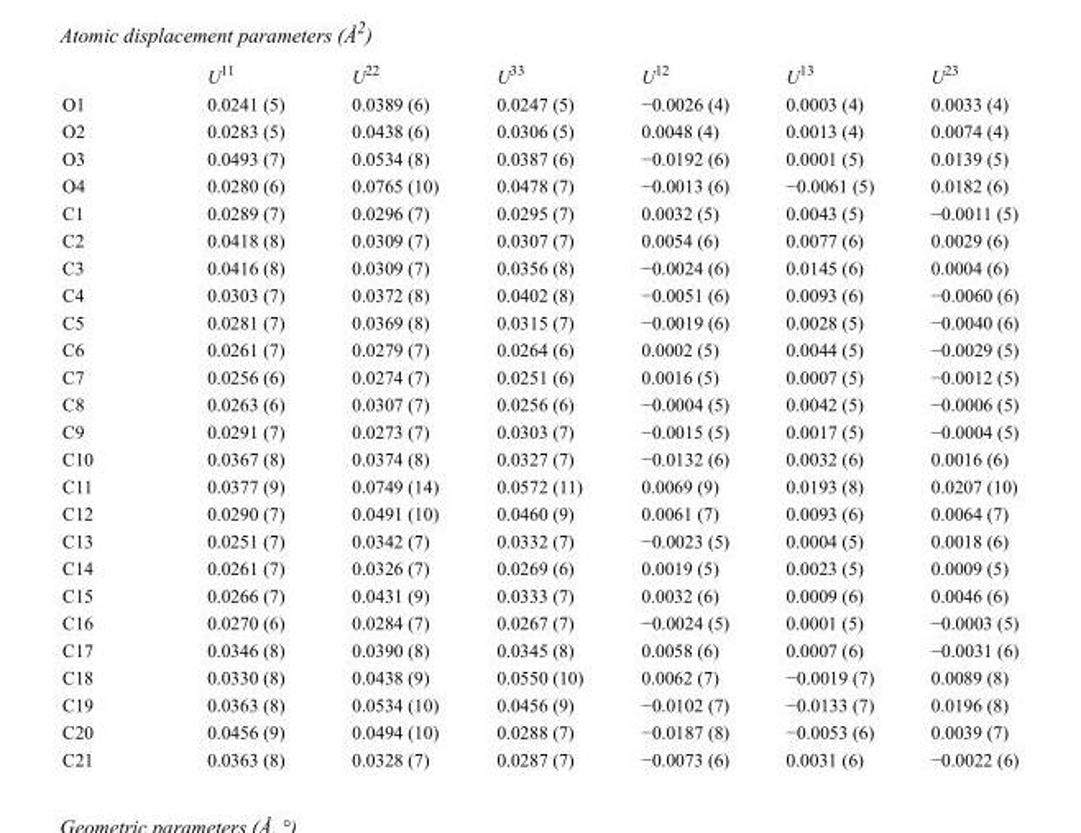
<table><thead><tr><td></td><td>U<sup>11</sup></td><td>U<sup>22</sup></td><td>U<sup>33</sup></td><td>U<sup>12</sup></td><td>U<sup>13</sup></td><td>U<sup>23</sup></td></tr></thead><tbody><tr><td>O1</td><td>0.0241 (5)</td><td>0.0389 (6)</td><td>0.0247 (5)</td><td>−0.0026 (4)</td><td>0.0003 (4)</td><td>0.0033 (4)</td></tr><tr><td>O2</td><td>0.0283 (5)</td><td>0.0438 (6)</td><td>0.0306 (5)</td><td>0.0048 (4)</td><td>0.0013 (4)</td><td>0.0074 (4)</td></tr><tr><td>O3</td><td>0.0493 (7)</td><td>0.0534 (8)</td><td>0.0387 (6)</td><td>−0.0192 (6)</td><td>0.0001 (5)</td><td>0.0139 (5)</td></tr><tr><td>O4</td><td>0.0280 (6)</td><td>0.0765 (10)</td><td>0.0478 (7)</td><td>−0.0013 (6)</td><td>−0.0061 (5)</td><td>0.0182 (6)</td></tr><tr><td>C1</td><td>0.0289 (7)</td><td>0.0296 (7)</td><td>0.0295 (7)</td><td>0.0032 (5)</td><td>0.0043 (5)</td><td>−0.0011 (5)</td></tr><tr><td>C2</td><td>0.0418 (8)</td><td>0.0309 (7)</td><td>0.0307 (7)</td><td>0.0054 (6)</td><td>0.0077 (6)</td><td>0.0029 (6)</td></tr><tr><td>C3</td><td>0.0416 (8)</td><td>0.0309 (7)</td><td>0.0356 (8)</td><td>−0.0024 (6)</td><td>0.0145 (6)</td><td>0.0004 (6)</td></tr><tr><td>C4</td><td>0.0303 (7)</td><td>0.0372 (8)</td><td>0.0402 (8)</td><td>−0.0051 (6)</td><td>0.0093 (6)</td><td>−0.0060 (6)</td></tr><tr><td>C5</td><td>0.0281 (7)</td><td>0.0369 (8)</td><td>0.0315 (7)</td><td>−0.0019 (6)</td><td>0.0028 (5)</td><td>−0.0040 (6)</td></tr><tr><td>C6</td><td>0.0261 (7)</td><td>0.0279 (7)</td><td>0.0264 (6)</td><td>0.0002 (5)</td><td>0.0044 (5)</td><td>−0.0029 (5)</td></tr><tr><td>C7</td><td>0.0256 (6)</td><td>0.0274 (7)</td><td>0.0251 (6)</td><td>0.0016 (5)</td><td>0.0007 (5)</td><td>−0.0012 (5)</td></tr><tr><td>C8</td><td>0.0263 (6)</td><td>0.0307 (7)</td><td>0.0256 (6)</td><td>−0.0004 (5)</td><td>0.0042 (5)</td><td>−0.0006 (5)</td></tr><tr><td>C9</td><td>0.0291 (7)</td><td>0.0273 (7)</td><td>0.0303 (7)</td><td>−0.0015 (5)</td><td>0.0017 (5)</td><td>−0.0004 (5)</td></tr><tr><td>C10</td><td>0.0367 (8)</td><td>0.0374 (8)</td><td>0.0327 (7)</td><td>−0.0132 (6)</td><td>0.0032 (6)</td><td>0.0016 (6)</td></tr><tr><td>C11</td><td>0.0377 (9)</td><td>0.0749 (14)</td><td>0.0572 (11)</td><td>0.0069 (9)</td><td>0.0193 (8)</td><td>0.0207 (10)</td></tr><tr><td>C12</td><td>0.0290 (7)</td><td>0.0491 (10)</td><td>0.0460 (9)</td><td>0.0061 (7)</td><td>0.0093 (6)</td><td>0.0064 (7)</td></tr><tr><td>C13</td><td>0.0251 (7)</td><td>0.0342 (7)</td><td>0.0332 (7)</td><td>−0.0023 (5)</td><td>0.0004 (5)</td><td>0.0018 (6)</td></tr><tr><td>C14</td><td>0.0261 (7)</td><td>0.0326 (7)</td><td>0.0269 (6)</td><td>0.0019 (5)</td><td>0.0023 (5)</td><td>0.0009 (5)</td></tr><tr><td>C15</td><td>0.0266 (7)</td><td>0.0431 (9)</td><td>0.0333 (7)</td><td>0.0032 (6)</td><td>0.0009 (6)</td><td>0.0046 (6)</td></tr><tr><td>C16</td><td>0.0270 (6)</td><td>0.0284 (7)</td><td>0.0267 (7)</td><td>−0.0024 (5)</td><td>0.0001 (5)</td><td>−0.0003 (5)</td></tr><tr><td>C17</td><td>0.0346 (8)</td><td>0.0390 (8)</td><td>0.0345 (8)</td><td>0.0058 (6)</td><td>0.0007 (6)</td><td>−0.0031 (6)</td></tr><tr><td>C18</td><td>0.0330 (8)</td><td>0.0438 (9)</td><td>0.0550 (10)</td><td>0.0062 (7)</td><td>−0.0019 (7)</td><td>0.0089 (8)</td></tr><tr><td>C19</td><td>0.0363 (8)</td><td>0.0534 (10)</td><td>0.0456 (9)</td><td>−0.0102 (7)</td><td>−0.0133 (7)</td><td>0.0196 (8)</td></tr><tr><td>C20</td><td>0.0456 (9)</td><td>0.0494 (10)</td><td>0.0288 (7)</td><td>−0.0187 (8)</td><td>−0.0053 (6)</td><td>0.0039 (7)</td></tr><tr><td>C21</td><td>0.0363 (8)</td><td>0.0328 (7)</td><td>0.0287 (7)</td><td>−0.0073 (6)</td><td>0.0031 (6)</td><td>−0.0022 (6)</td></tr></tbody></table>